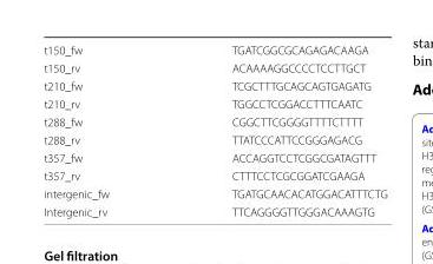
<table><tbody><tr><td>t150_fw</td><td>TGATCGGCGCAGAGACAAGA</td></tr><tr><td>t150_rv</td><td>ACAAAAGGCCCCTCCTTGCT</td></tr><tr><td>t210_fw</td><td>TCGCTTTGCAGCAGTGAGATG</td></tr><tr><td>t210_rv</td><td>TGGCCTCGGACCTTTCAATC</td></tr><tr><td>t288_fw</td><td>CGGCTTCGGGGTTTTCTTTT</td></tr><tr><td>t288_rv</td><td>TTATCCCATTCCGGGAGACG</td></tr><tr><td>t357_fw</td><td>ACCAGGTCCTCGGCGATAGTTT</td></tr><tr><td>t357_rv</td><td>CTTTCCTCGCGGATCGAAGA</td></tr><tr><td>intergenic_fw</td><td>TGATGCAACACATGGACATTTCTG</td></tr><tr><td>Intergenic_rv</td><td>TTCAGGGGTTGGGACAAAGTG</td></tr></tbody></table>